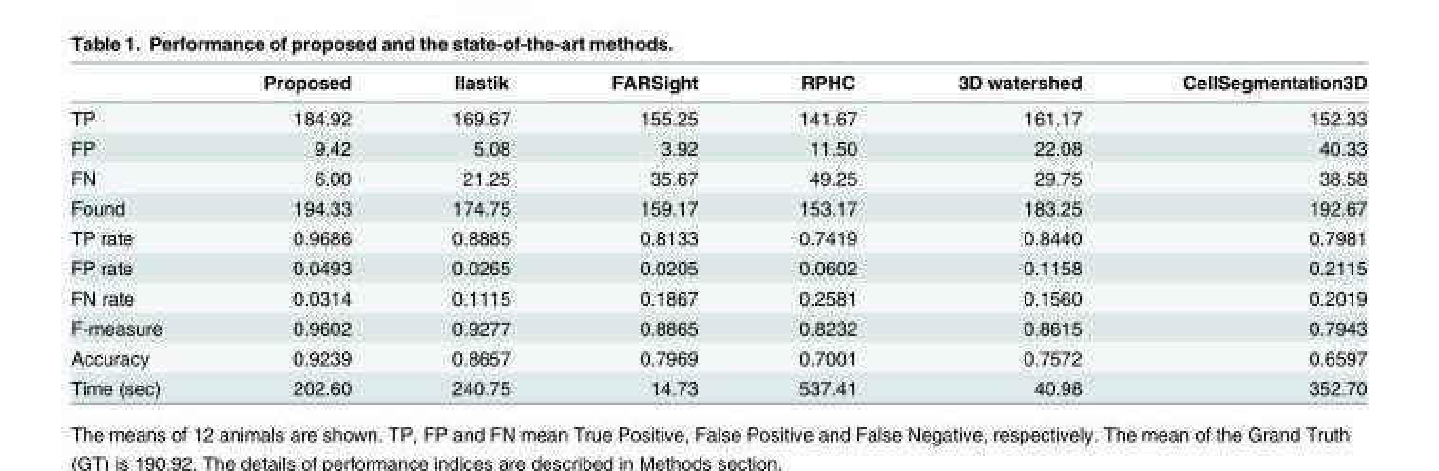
<table><thead><tr><td></td><td>Proposed</td><td>Ilastik</td><td>FARSight</td><td>RPHC</td><td>3D watershed</td><td>CellSegmentation3D</td></tr></thead><tbody><tr><td>TP</td><td>184.92</td><td>169.67</td><td>155.25</td><td>141.67</td><td>161.17</td><td>152.33</td></tr><tr><td>FP</td><td>9.42</td><td>5.08</td><td>3.92</td><td>11.50</td><td>22.08</td><td>40.33</td></tr><tr><td>FN</td><td>6.00</td><td>21.25</td><td>35.67</td><td>49.25</td><td>29.75</td><td>38.58</td></tr><tr><td>Found</td><td>194.33</td><td>174.75</td><td>159.17</td><td>153.17</td><td>183.25</td><td>192.67</td></tr><tr><td>TP rate</td><td>0.9686</td><td>0.8885</td><td>0.8133</td><td>0.7419</td><td>0.8440</td><td>0.7981</td></tr><tr><td>FP rate</td><td>0.0493</td><td>0.0265</td><td>0.0205</td><td>0.0602</td><td>0.1158</td><td>0.2115</td></tr><tr><td>FN rate</td><td>0.0314</td><td>0.1115</td><td>0.1867</td><td>0.2581</td><td>0.1560</td><td>0.2019</td></tr><tr><td>F-measure</td><td>0.9602</td><td>0.9277</td><td>0.8865</td><td>0.8232</td><td>0.8615</td><td>0.7943</td></tr><tr><td>Accuracy</td><td>0.9239</td><td>0.8657</td><td>0.7969</td><td>0.7001</td><td>0.7572</td><td>0.6597</td></tr><tr><td>Time (sec)</td><td>202.60</td><td>240.75</td><td>14.73</td><td>537.41</td><td>40.98</td><td>352.70</td></tr></tbody></table>